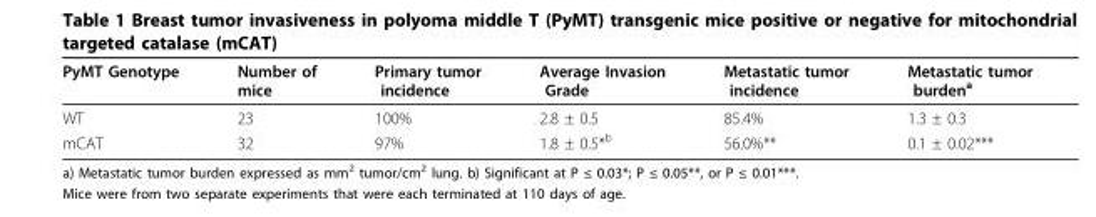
<table><thead><tr><td>PyMT Genotype</td><td>Number of mice</td><td>Primary tumor incidence</td><td>Average Invasion Grade</td><td>Metastatic tumor incidence</td><td>Metastatic tumor burden<sup>a</sup></td></tr></thead><tbody><tr><td>WT</td><td>23</td><td>100%</td><td>2.8 ± 0.5</td><td>85.4%</td><td>1.3 ± 0.3</td></tr><tr><td>mCAT</td><td>32</td><td>97%</td><td>1.8 ± 0.5*<sup>b</sup></td><td>56.0%**</td><td>0.1 ± 0.02***</td></tr></tbody></table>